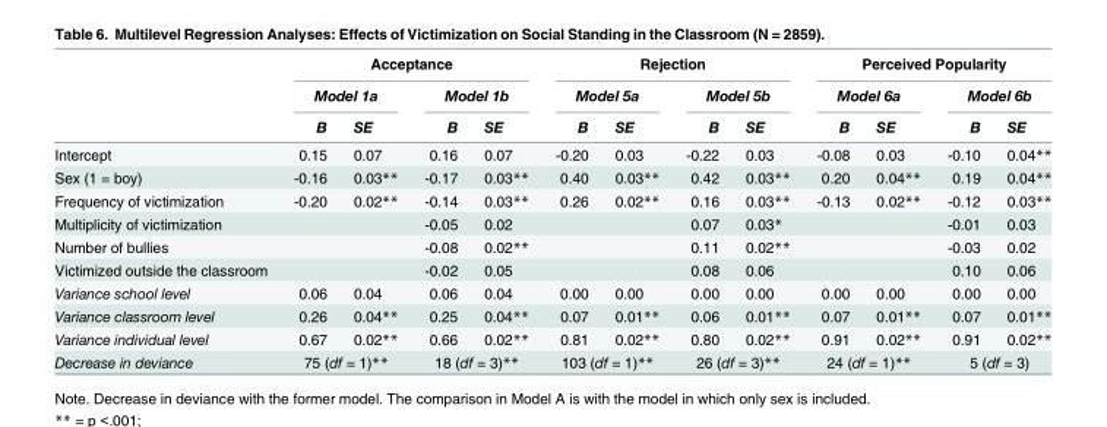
<table><thead><tr><td rowspan="3"></td><td colspan="4">Acceptance</td><td colspan="4">Rejection</td><td colspan="4">Perceived Popularity</td></tr><tr><td colspan="2">Model 1a</td><td colspan="2">Model 1b</td><td colspan="2">Model 5a</td><td colspan="2">Model 5b</td><td colspan="2">Model 6a</td><td colspan="2">Model 6b</td></tr><tr><td>B</td><td>SE</td><td>B</td><td>SE</td><td>B</td><td>SE</td><td>B</td><td>SE</td><td>B</td><td>SE</td><td>B</td><td>SE</td></tr></thead><tbody><tr><td>Intercept</td><td>0.15</td><td>0.07</td><td>0.16</td><td>0.07</td><td>-0.20</td><td>0.03</td><td>-0.22</td><td>0.03</td><td>-0.08</td><td>0.03</td><td>-0.10</td><td>0.04**</td></tr><tr><td>Sex (1 = boy)</td><td>-0.16</td><td>0.03**</td><td>-0.17</td><td>0.03**</td><td>0.40</td><td>0.03**</td><td>0.42</td><td>0.03**</td><td>0.20</td><td>0.04**</td><td>0.19</td><td>0.04**</td></tr><tr><td>Frequency of victimization</td><td>-0.20</td><td>0.02**</td><td>-0.14</td><td>0.03**</td><td>0.26</td><td>0.02**</td><td>0.16</td><td>0.03**</td><td>-0.13</td><td>0.02**</td><td>-0.12</td><td>0.03**</td></tr><tr><td>Multiplicity of victimization</td><td></td><td></td><td>-0.05</td><td>0.02</td><td></td><td></td><td>0.07</td><td>0.03*</td><td></td><td></td><td>-0.01</td><td>0.03</td></tr><tr><td>Number of bullies</td><td></td><td></td><td>-0.08</td><td>0.02**</td><td></td><td></td><td>0.11</td><td>0.02**</td><td></td><td></td><td>-0.03</td><td>0.02</td></tr><tr><td>Victimized outside the classroom</td><td></td><td></td><td>-0.02</td><td>0.05</td><td></td><td></td><td>0.08</td><td>0.06</td><td></td><td></td><td>0.10</td><td>0.06</td></tr><tr><td>Variance school level</td><td>0.06</td><td>0.04</td><td>0.06</td><td>0.04</td><td>0.00</td><td>0.00</td><td>0.00</td><td>0.00</td><td>0.00</td><td>0.00</td><td>0.00</td><td>0.00</td></tr><tr><td>Variance classroom level</td><td>0.26</td><td>0.04**</td><td>0.25</td><td>0.04**</td><td>0.07</td><td>0.01**</td><td>0.06</td><td>0.01**</td><td>0.07</td><td>0.01**</td><td>0.07</td><td>0.01**</td></tr><tr><td>Variance individual level</td><td>0.67</td><td>0.02**</td><td>0.66</td><td>0.02**</td><td>0.81</td><td>0.02**</td><td>0.80</td><td>0.02**</td><td>0.91</td><td>0.02**</td><td>0.91</td><td>0.02**</td></tr><tr><td>Decrease in deviance</td><td colspan="2">75 (df = 1)**</td><td colspan="2">18 (df = 3)**</td><td colspan="2">103 (df = 1)**</td><td colspan="2">26 (df = 3)**</td><td colspan="2">24 (df = 1)**</td><td colspan="2">5 (df = 3)</td></tr></tbody></table>